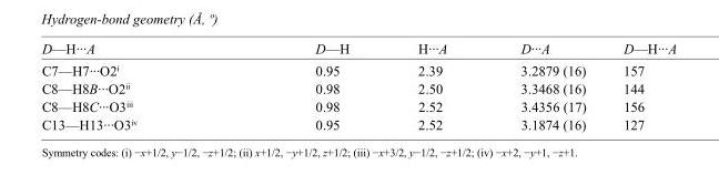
<table><tbody><tr><td>D—H···A</td><td>D—H</td><td>H···A</td><td>D···A</td><td>D—H···A</td></tr><tr><td>C7—H7···O2<sup>i</sup></td><td>0.95</td><td>2.39</td><td>3.2879 (16)</td><td>157</td></tr><tr><td>C8—H8B···O2<sup>ii</sup></td><td>0.98</td><td>2.50</td><td>3.3468 (16)</td><td>144</td></tr><tr><td>C8—H8C···O3<sup>iii</sup></td><td>0.98</td><td>2.52</td><td>3.4356 (17)</td><td>156</td></tr><tr><td>C13—H13···O3<sup>iv</sup></td><td>0.95</td><td>2.52</td><td>3.1874 (16)</td><td>127</td></tr></tbody></table>